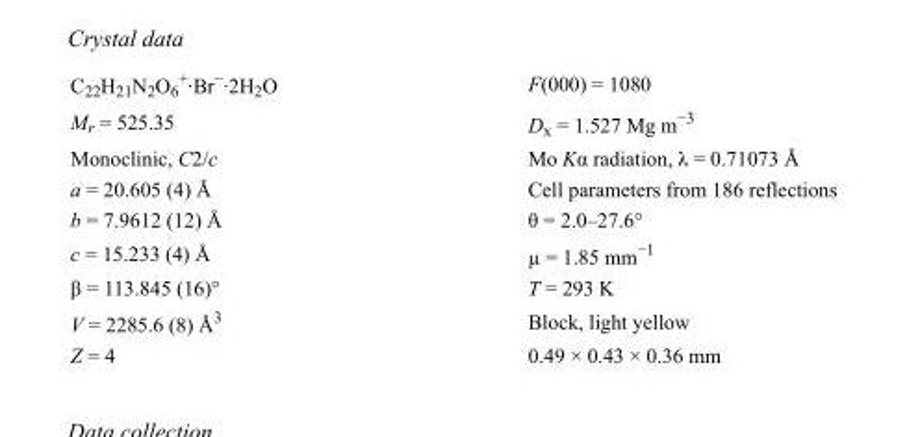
<table><tbody><tr><td>C<sub>22</sub>H<sub>21</sub>N<sub>2</sub>O<sub>6</sub> <sup>+</sup>·Br<sup>−</sup>·2H<sub>2</sub>O</td><td>F(000) = 1080</td></tr><tr><td>M<sub>r</sub> = 525.35</td><td>D<sub>x</sub> = 1.527 Mg m<sup>−3</sup></td></tr><tr><td>Monoclinic, C2/c</td><td>Mo Kα radiation, λ = 0.71073 Å</td></tr><tr><td>a = 20.605 (4) Å</td><td>Cell parameters from 186 reflections</td></tr><tr><td>b = 7.9612 (12) Å</td><td>θ = 2.0–27.6°</td></tr><tr><td>c = 15.233 (4) Å</td><td>µ = 1.85 mm<sup>−1</sup></td></tr><tr><td>β = 113.845 (16)°</td><td>T = 293 K</td></tr><tr><td>V = 2285.6 (8) Å<sup>3</sup></td><td>Block, light yellow</td></tr><tr><td>Z = 4</td><td>0.49 × 0.43 × 0.36 mm</td></tr></tbody></table>